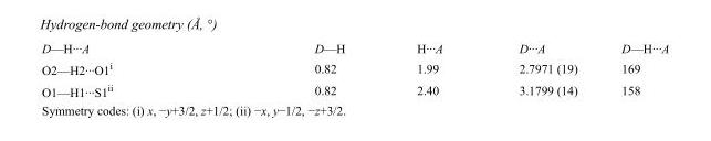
<table><tbody><tr><td>D—H···A</td><td>D—H</td><td>H···A</td><td>D···A</td><td>D—H···A</td></tr><tr><td>O2—H2···O1<sup>i</sup></td><td>0.82</td><td>1.99</td><td>2.7971 (19)</td><td>169</td></tr><tr><td>O1—H1···S1<sup>ii</sup></td><td>0.82</td><td>2.40</td><td>3.1799 (14)</td><td>158</td></tr></tbody></table>